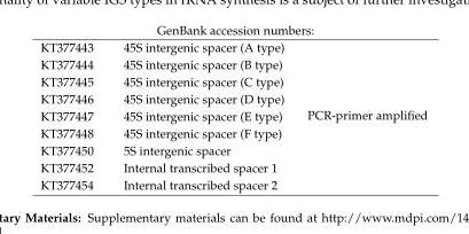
<table><tbody><tr><td>KT377443</td><td>45S intergenic spacer (A type)</td><td rowspan="9">PCR-primer amplified</td></tr><tr><td>KT377444</td><td>45S intergenic spacer (B type)</td></tr><tr><td>KT377445</td><td>45S intergenic spacer (C type)</td></tr><tr><td>KT377446</td><td>45S intergenic spacer (D type)</td></tr><tr><td>KT377447</td><td>45S intergenic spacer (E type)</td></tr><tr><td>KT377448</td><td>45S intergenic spacer (F type)</td></tr><tr><td>KT377450</td><td>5S intergenic spacer</td></tr><tr><td>KT377452</td><td>Internal transcribed spacer 1</td></tr><tr><td>KT377454</td><td>Internal transcribed spacer 2</td></tr></tbody></table>